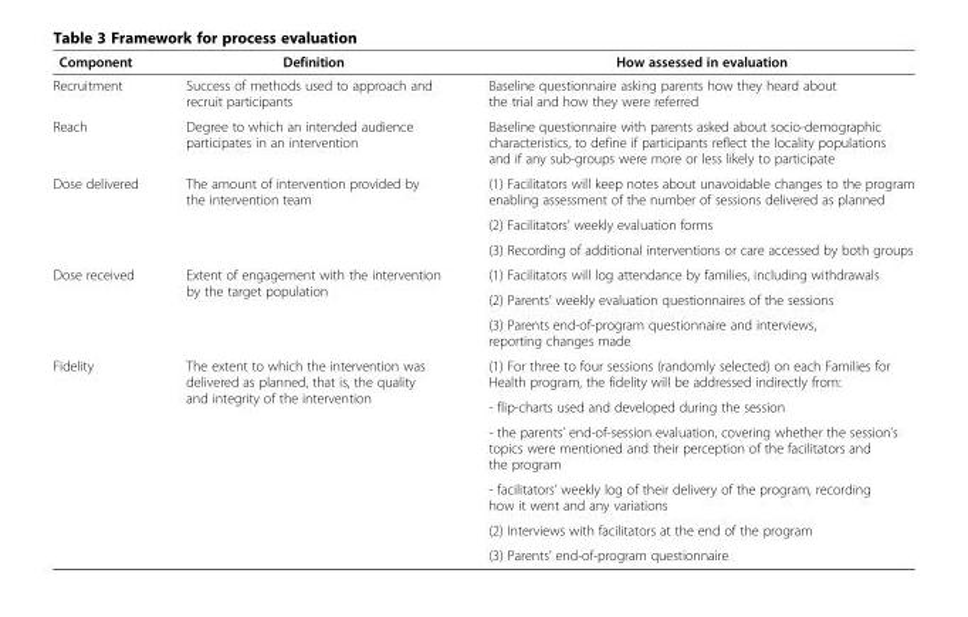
<table><thead><tr><td>Component</td><td>Definition</td><td>How assessed in evaluation</td></tr></thead><tbody><tr><td>Recruitment</td><td>Success of methods used to approach and recruit participants</td><td>Baseline questionnaire asking parents how they heard about the trial and how they were referred</td></tr><tr><td>Reach</td><td>Degree to which an intended audience participates in an intervention</td><td>Baseline questionnaire with parents asked about socio-demographic characteristics, to define if participants reflect the locality populations and if any sub-groups were more or less likely to participate</td></tr><tr><td rowspan="3">Dose delivered</td><td rowspan="3">The amount of intervention provided by the intervention team</td><td>(1) Facilitators will keep notes about unavoidable changes to the program enabling assessment of the number of sessions delivered as planned</td></tr><tr><td>(2) Facilitators’ weekly evaluation forms</td></tr><tr><td>(3) Recording of additional interventions or care accessed by both groups</td></tr><tr><td rowspan="3">Dose received</td><td rowspan="3">Extent of engagement with the intervention by the target population</td><td>(1) Facilitators will log attendance by families, including withdrawals</td></tr><tr><td>(2) Parents’ weekly evaluation questionnaires of the sessions</td></tr><tr><td>(3) Parents end-of-program questionnaire and interviews, reporting changes made</td></tr><tr><td rowspan="6">Fidelity</td><td rowspan="5">The extent to which the intervention was delivered as planned, that is, the quality and integrity of the intervention</td><td>(1) For three to four sessions (randomly selected) on each Families for Health program, the fidelity will be addressed indirectly from:</td></tr><tr><td>- flip-charts used and developed during the session</td></tr><tr><td>- the parents’ end-of-session evaluation, covering whether the session’s topics were mentioned and their perception of the facilitators and the program</td></tr><tr><td>- facilitators’ weekly log of their delivery of the program, recording how it went and any variations</td></tr><tr><td>(2) Interviews with facilitators at the end of the program</td></tr><tr><td></td><td>(3) Parents’ end-of-program questionnaire</td></tr></tbody></table>